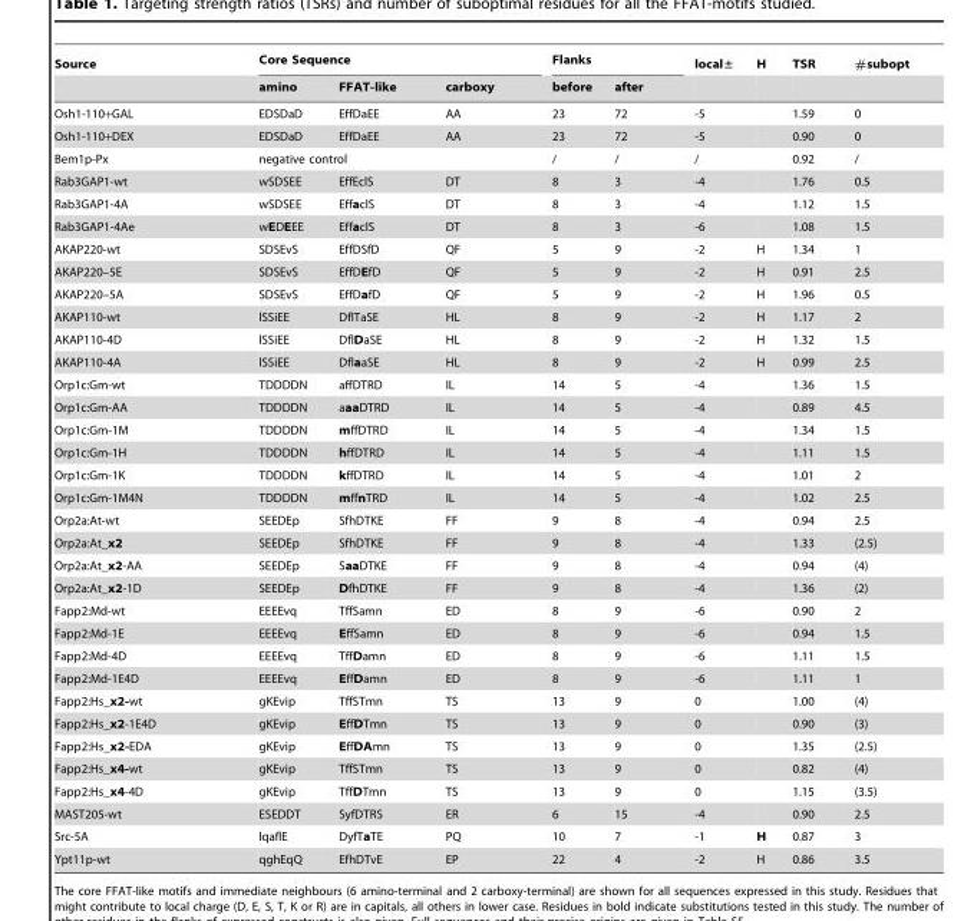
<table><thead><tr><td rowspan="2">Source</td><td colspan="3">Core Sequence</td><td colspan="2">Flanks</td><td rowspan="2">local±</td><td rowspan="2">H</td><td rowspan="2">TSR</td><td rowspan="2">#subopt</td></tr><tr><td>amino</td><td>FFAT-like</td><td>carboxy</td><td>before</td><td>after</td></tr></thead><tbody><tr><td>Osh1-110+GAL</td><td>EDSDaD</td><td>EffDaEE</td><td>AA</td><td>23</td><td>72</td><td>-5</td><td></td><td>1.59</td><td>0</td></tr><tr><td>Osh1-110+DEX</td><td>EDSDaD</td><td>EffDaEE</td><td>AA</td><td>23</td><td>72</td><td>-5</td><td></td><td>0.90</td><td>0</td></tr><tr><td>Bem1p-Px</td><td colspan="2">negative control</td><td></td><td>/</td><td>/</td><td>/</td><td></td><td>0.92</td><td>/</td></tr><tr><td>Rab3GAP1-wt</td><td>wSDSEE</td><td>EffEclS</td><td>DT</td><td>8</td><td>3</td><td>-4</td><td></td><td>1.76</td><td>0.5</td></tr><tr><td>Rab3GAP1-4A</td><td>wSDSEE</td><td>EffaclS</td><td>DT</td><td>8</td><td>3</td><td>-4</td><td></td><td>1.12</td><td>1.5</td></tr><tr><td>Rab3GAP1-4Ae</td><td>wEDEEE</td><td>EffaclS</td><td>DT</td><td>8</td><td>3</td><td>-6</td><td></td><td>1.08</td><td>1.5</td></tr><tr><td>AKAP220-wt</td><td>SDSEvS</td><td>EffDSfD</td><td>QF</td><td>5</td><td>9</td><td>-2</td><td>H</td><td>1.34</td><td>1</td></tr><tr><td>AKAP220–5E</td><td>SDSEvS</td><td>EffDEfD</td><td>QF</td><td>5</td><td>9</td><td>-2</td><td>H</td><td>0.91</td><td>2.5</td></tr><tr><td>AKAP220–5A</td><td>SDSEvS</td><td>EffDafD</td><td>QF</td><td>5</td><td>9</td><td>-2</td><td>H</td><td>1.96</td><td>0.5</td></tr><tr><td>AKAP110-wt</td><td>lSSiEE</td><td>DflTaSE</td><td>HL</td><td>8</td><td>9</td><td>-2</td><td>H</td><td>1.17</td><td>2</td></tr><tr><td>AKAP110-4D</td><td>lSSiEE</td><td>DflDaSE</td><td>HL</td><td>8</td><td>9</td><td>-2</td><td>H</td><td>1.32</td><td>1.5</td></tr><tr><td>AKAP110-4A</td><td>lSSiEE</td><td>DflaaSE</td><td>HL</td><td>8</td><td>9</td><td>-2</td><td>H</td><td>0.99</td><td>2.5</td></tr><tr><td>Orp1c:Gm-wt</td><td>TDDDDN</td><td>affDTRD</td><td>IL</td><td>14</td><td>5</td><td>-4</td><td></td><td>1.36</td><td>1.5</td></tr><tr><td>Orp1c:Gm-AA</td><td>TDDDDN</td><td>aaaDTRD</td><td>IL</td><td>14</td><td>5</td><td>-4</td><td></td><td>0.89</td><td>4.5</td></tr><tr><td>Orp1c:Gm-1M</td><td>TDDDDN</td><td>mffDTRD</td><td>IL</td><td>14</td><td>5</td><td>-4</td><td></td><td>1.34</td><td>1.5</td></tr><tr><td>Orp1c:Gm-1H</td><td>TDDDDN</td><td>hffDTRD</td><td>IL</td><td>14</td><td>5</td><td>-4</td><td></td><td>1.11</td><td>1.5</td></tr><tr><td>Orp1c:Gm-1K</td><td>TDDDDN</td><td>kffDTRD</td><td>IL</td><td>14</td><td>5</td><td>-4</td><td></td><td>1.01</td><td>2</td></tr><tr><td>Orp1c:Gm-1M4N</td><td>TDDDDN</td><td>mffnTRD</td><td>IL</td><td>14</td><td>5</td><td>-4</td><td></td><td>1.02</td><td>2.5</td></tr><tr><td>Orp2a:At-wt</td><td>SEEDEp</td><td>SfhDTKE</td><td>FF</td><td>9</td><td>8</td><td>-4</td><td></td><td>0.94</td><td>2.5</td></tr><tr><td>Orp2a:At_x2</td><td>SEEDEp</td><td>SfhDTKE</td><td>FF</td><td>9</td><td>8</td><td>-4</td><td></td><td>1.33</td><td>(2.5)</td></tr><tr><td>Orp2a:At_x2-AA</td><td>SEEDEp</td><td>SaaDTKE</td><td>FF</td><td>9</td><td>8</td><td>-4</td><td></td><td>0.94</td><td>(4)</td></tr><tr><td>Orp2a:At_x2-1D</td><td>SEEDEp</td><td>DfhDTKE</td><td>FF</td><td>9</td><td>8</td><td>-4</td><td></td><td>1.36</td><td>(2)</td></tr><tr><td>Fapp2:Md-wt</td><td>EEEEvq</td><td>TffSamn</td><td>ED</td><td>8</td><td>9</td><td>-6</td><td></td><td>0.90</td><td>2</td></tr><tr><td>Fapp2:Md-1E</td><td>EEEEvq</td><td>EffSamn</td><td>ED</td><td>8</td><td>9</td><td>-6</td><td></td><td>0.94</td><td>1.5</td></tr><tr><td>Fapp2:Md-4D</td><td>EEEEvq</td><td>TffDamn</td><td>ED</td><td>8</td><td>9</td><td>-6</td><td></td><td>1.11</td><td>1.5</td></tr><tr><td>Fapp2:Md-1E4D</td><td>EEEEvq</td><td>EffDamn</td><td>ED</td><td>8</td><td>9</td><td>-6</td><td></td><td>1.11</td><td>1</td></tr><tr><td>Fapp2:Hs_x2-wt</td><td>gKEvip</td><td>TffSTmn</td><td>TS</td><td>13</td><td>9</td><td>0</td><td></td><td>1.00</td><td>(4)</td></tr><tr><td>Fapp2:Hs_x2-1E4D</td><td>gKEvip</td><td>EffDTmn</td><td>TS</td><td>13</td><td>9</td><td>0</td><td></td><td>0.90</td><td>(3)</td></tr><tr><td>Fapp2:Hs_x2-EDA</td><td>gKEvip</td><td>EffDAmn</td><td>TS</td><td>13</td><td>9</td><td>0</td><td></td><td>1.35</td><td>(2.5)</td></tr><tr><td>Fapp2:Hs_x4-wt</td><td>gKEvip</td><td>TffSTmn</td><td>TS</td><td>13</td><td>9</td><td>0</td><td></td><td>0.82</td><td>(4)</td></tr><tr><td>Fapp2:Hs_x4-4D</td><td>gKEvip</td><td>TffDTmn</td><td>TS</td><td>13</td><td>9</td><td>0</td><td></td><td>1.15</td><td>(3.5)</td></tr><tr><td>MAST205-wt</td><td>ESEDDT</td><td>SyfDTRS</td><td>ER</td><td>6</td><td>15</td><td>-4</td><td></td><td>0.90</td><td>2.5</td></tr><tr><td>Src-5A</td><td>lqaflE</td><td>DyfTaTE</td><td>PQ</td><td>10</td><td>7</td><td>-1</td><td>H</td><td>0.87</td><td>3</td></tr><tr><td>Ypt11p-wt</td><td>qghEqQ</td><td>EfhDTvE</td><td>EP</td><td>22</td><td>4</td><td>-2</td><td>H</td><td>0.86</td><td>3.5</td></tr></tbody></table>